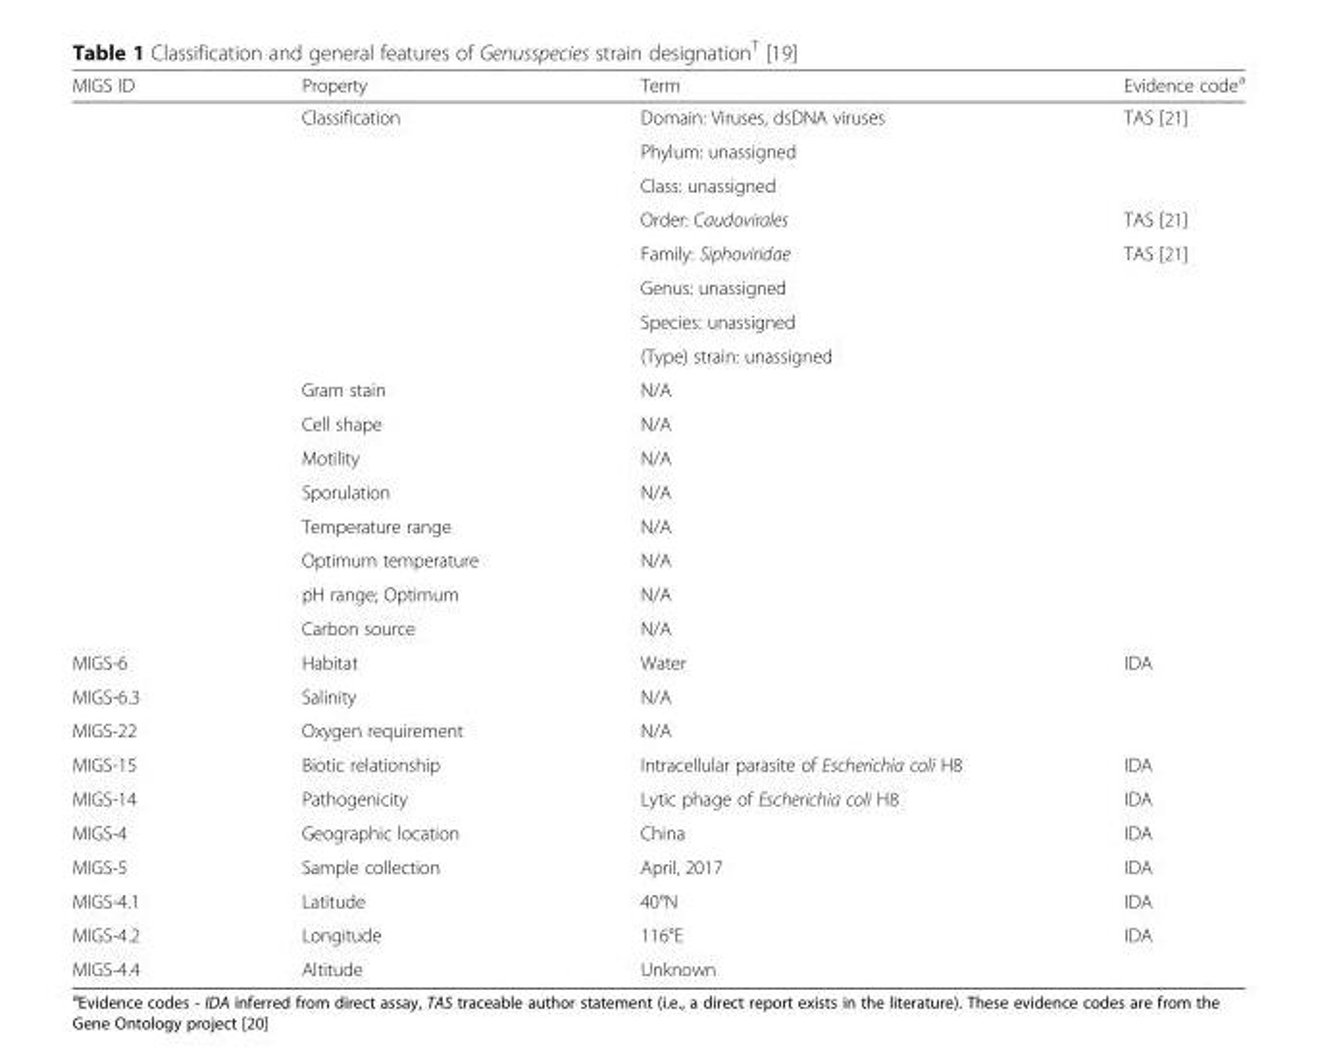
<table><thead><tr><td>MIGS ID</td><td>Property</td><td>Term</td><td>Evidence code<sup>a</sup></td></tr></thead><tbody><tr><td></td><td>Classification</td><td>Domain: Viruses, dsDNA viruses</td><td>TAS [21]</td></tr><tr><td></td><td></td><td>Phylum: unassigned</td><td></td></tr><tr><td></td><td></td><td>Class: unassigned</td><td></td></tr><tr><td></td><td></td><td>Order: Caudovirales</td><td>TAS [21]</td></tr><tr><td></td><td></td><td>Family: Siphoviridae</td><td>TAS [21]</td></tr><tr><td></td><td></td><td>Genus: unassigned</td><td></td></tr><tr><td></td><td></td><td>Species: unassigned</td><td></td></tr><tr><td></td><td></td><td>(Type) strain: unassigned</td><td></td></tr><tr><td></td><td>Gram stain</td><td>N/A</td><td></td></tr><tr><td></td><td>Cell shape</td><td>N/A</td><td></td></tr><tr><td></td><td>Motility</td><td>N/A</td><td></td></tr><tr><td></td><td>Sporulation</td><td>N/A</td><td></td></tr><tr><td></td><td>Temperature range</td><td>N/A</td><td></td></tr><tr><td></td><td>Optimum temperature</td><td>N/A</td><td></td></tr><tr><td></td><td>pH range; Optimum</td><td>N/A</td><td></td></tr><tr><td></td><td>Carbon source</td><td>N/A</td><td></td></tr><tr><td>MIGS-6</td><td>Habitat</td><td>Water</td><td>IDA</td></tr><tr><td>MIGS-6.3</td><td>Salinity</td><td>N/A</td><td></td></tr><tr><td>MIGS-22</td><td>Oxygen requirement</td><td>N/A</td><td></td></tr><tr><td>MIGS-15</td><td>Biotic relationship</td><td>Intracellular parasite of Escherichia coli H8</td><td>IDA</td></tr><tr><td>MIGS-14</td><td>Pathogenicity</td><td>Lytic phage of Escherichia coli H8</td><td>IDA</td></tr><tr><td>MIGS-4</td><td>Geographic location</td><td>China</td><td>IDA</td></tr><tr><td>MIGS-5</td><td>Sample collection</td><td>April, 2017</td><td>IDA</td></tr><tr><td>MIGS-4.1</td><td>Latitude</td><td>40°N</td><td>IDA</td></tr><tr><td>MIGS-4.2</td><td>Longitude</td><td>116°E</td><td>IDA</td></tr><tr><td>MIGS-4.4</td><td>Altitude</td><td>Unknown</td><td></td></tr></tbody></table>